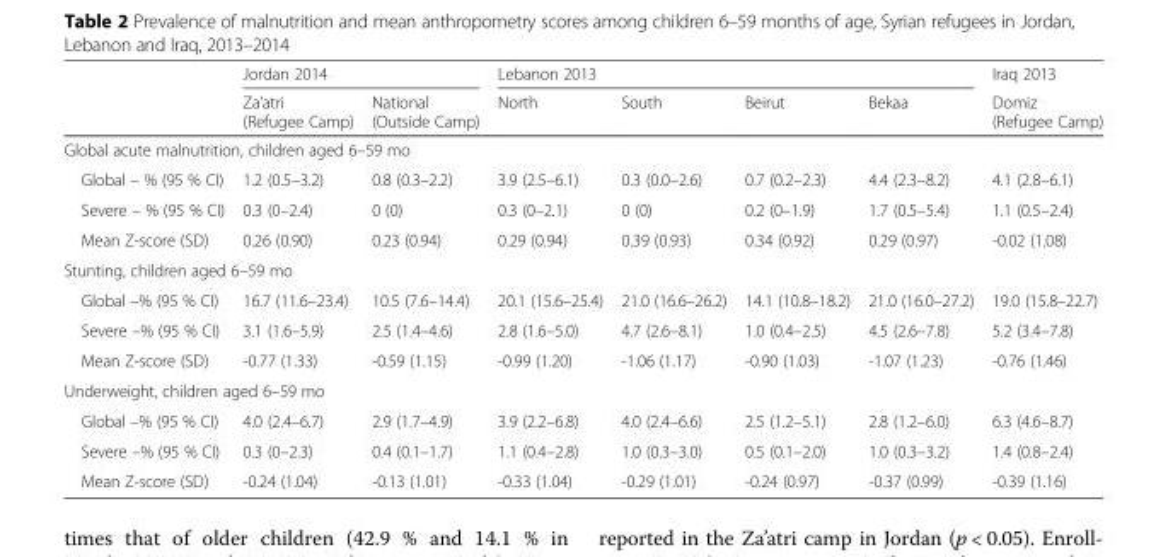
<table><thead><tr><td rowspan="2"></td><td colspan="2">Jordan 2014</td><td colspan="4">Lebanon 2013</td><td rowspan="2">Iraq 2013 Domiz (Refugee Camp)</td></tr><tr><td>Za’atri (Refugee Camp)</td><td>National (Outside Camp)</td><td>North</td><td>South</td><td>Beirut</td><td>Bekaa</td></tr></thead><tbody><tr><td colspan="8">Global acute malnutrition, children aged 6–59 mo</td></tr><tr><td>Global – % (95 % CI)</td><td>1.2 (0.5–3.2)</td><td>0.8 (0.3–2.2)</td><td>3.9 (2.5–6.1)</td><td>0.3 (0.0–2.6)</td><td>0.7 (0.2–2.3)</td><td>4.4 (2.3–8.2)</td><td>4.1 (2.8–6.1)</td></tr><tr><td>Severe – % (95 % CI)</td><td>0.3 (0–2.4)</td><td>0 (0)</td><td>0.3 (0–2.1)</td><td>0 (0)</td><td>0.2 (0–1.9)</td><td>1.7 (0.5–5.4)</td><td>1.1 (0.5–2.4)</td></tr><tr><td>Mean Z-score (SD)</td><td>0.26 (0.90)</td><td>0.23 (0.94)</td><td>0.29 (0.94)</td><td>0.39 (0.93)</td><td>0.34 (0.92)</td><td>0.29 (0.97)</td><td>-0.02 (1.08)</td></tr><tr><td colspan="8">Stunting, children aged 6–59 mo</td></tr><tr><td>Global –% (95 % CI)</td><td>16.7 (11.6–23.4)</td><td>10.5 (7.6–14.4)</td><td>20.1 (15.6–25.4)</td><td>21.0 (16.6–26.2)</td><td>14.1 (10.8–18.2)</td><td>21.0 (16.0–27.2)</td><td>19.0 (15.8–22.7)</td></tr><tr><td>Severe –% (95 % CI)</td><td>3.1 (1.6–5.9)</td><td>2.5 (1.4–4.6)</td><td>2.8 (1.6–5.0)</td><td>4.7 (2.6–8.1)</td><td>1.0 (0.4–2.5)</td><td>4.5 (2.6–7.8)</td><td>5.2 (3.4–7.8)</td></tr><tr><td>Mean Z-score (SD)</td><td>-0.77 (1.33)</td><td>-0.59 (1.15)</td><td>-0.99 (1.20)</td><td>-1.06 (1.17)</td><td>-0.90 (1.03)</td><td>-1.07 (1.23)</td><td>-0.76 (1.46)</td></tr><tr><td colspan="8">Underweight, children aged 6–59 mo</td></tr><tr><td>Global –% (95 % CI)</td><td>4.0 (2.4–6.7)</td><td>2.9 (1.7–4.9)</td><td>3.9 (2.2–6.8)</td><td>4.0 (2.4–6.6)</td><td>2.5 (1.2–5.1)</td><td>2.8 (1.2–6.0)</td><td>6.3 (4.6–8.7)</td></tr><tr><td>Severe –% (95 % CI)</td><td>0.3 (0–2.3)</td><td>0.4 (0.1–1.7)</td><td>1.1 (0.4–2.8)</td><td>1.0 (0.3–3.0)</td><td>0.5 (0.1–2.0)</td><td>1.0 (0.3–3.2)</td><td>1.4 (0.8–2.4)</td></tr><tr><td>Mean Z-score (SD)</td><td>-0.24 (1.04)</td><td>-0.13 (1.01)</td><td>-0.33 (1.04)</td><td>-0.29 (1.01)</td><td>-0.24 (0.97)</td><td>-0.37 (0.99)</td><td>-0.39 (1.16)</td></tr></tbody></table>